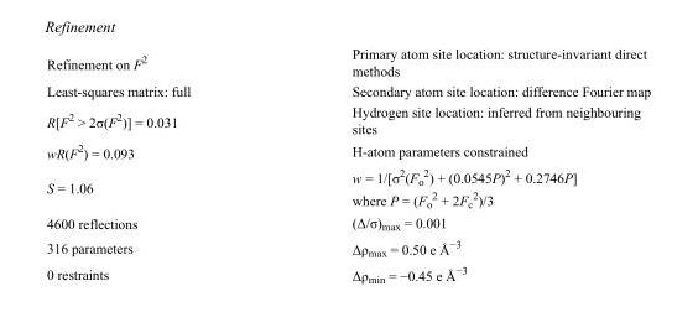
<table><tbody><tr><td>Refinement on F<sup>2</sup></td><td>Primary atom site location: structure-invariant direct methods</td></tr><tr><td>Least-squares matrix: full</td><td>Secondary atom site location: difference Fourier map</td></tr><tr><td>R[F<sup>2</sup> &gt; 2σ(F<sup>2</sup>)] = 0.031</td><td>Hydrogen site location: inferred from neighbouring sites</td></tr><tr><td>wR(F<sup>2</sup>) = 0.093</td><td>H-atom parameters constrained</td></tr><tr><td>S = 1.06</td><td>w = 1/[σ<sup>2</sup>(F<sub>o</sub> <sup>2</sup>) + (0.0545P)<sup>2</sup> + 0.2746P] where P = (F<sub>o</sub> <sup>2</sup> + 2F<sub>c</sub> <sup>2</sup>)/3</td></tr><tr><td>4600 reflections</td><td>(Δ/σ)<sub>max</sub> = 0.001</td></tr><tr><td>316 parameters</td><td>Δρ<sub>max</sub> = 0.50 e Å<sup>−3</sup></td></tr><tr><td>0 restraints</td><td>Δρ<sub>min</sub> = −0.45 e Å<sup>−3</sup></td></tr></tbody></table>